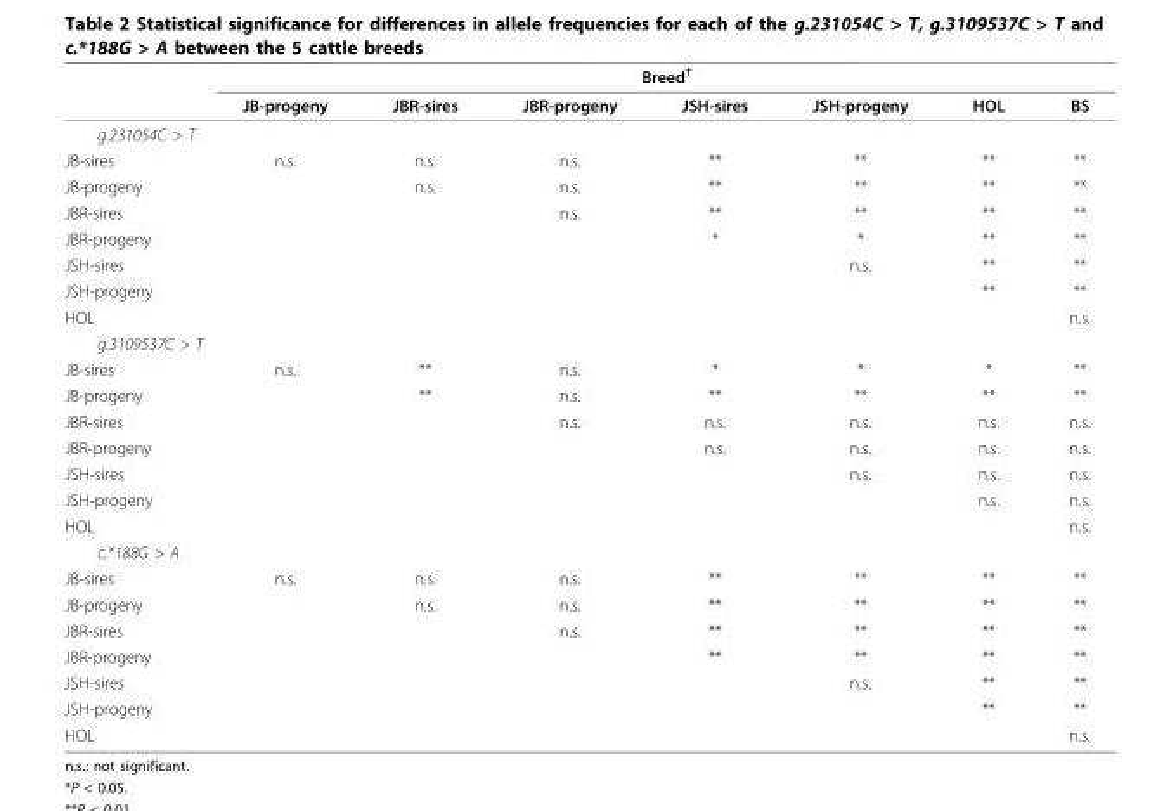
<table><thead><tr><td rowspan="2"></td><td colspan="7">Breed<sup>†</sup></td></tr><tr><td>JB-progeny</td><td>JBR-sires</td><td>JBR-progeny</td><td>JSH-sires</td><td>JSH-progeny</td><td>HOL</td><td>BS</td></tr></thead><tbody><tr><td colspan="8">g.231054C &gt; T</td></tr><tr><td>JB-sires</td><td>n.s.</td><td>n.s.</td><td>n.s.</td><td>**</td><td>**</td><td>**</td><td>**</td></tr><tr><td>JB-progeny</td><td></td><td>n.s.</td><td>n.s.</td><td>**</td><td>**</td><td>**</td><td>**</td></tr><tr><td>JBR-sires</td><td></td><td></td><td>n.s.</td><td>**</td><td>**</td><td>**</td><td>**</td></tr><tr><td>JBR-progeny</td><td></td><td></td><td></td><td>*</td><td>*</td><td>**</td><td>**</td></tr><tr><td>JSH-sires</td><td></td><td></td><td></td><td></td><td>n.s.</td><td>**</td><td>**</td></tr><tr><td>JSH-progeny</td><td></td><td></td><td></td><td></td><td></td><td>**</td><td>**</td></tr><tr><td>HOL</td><td></td><td></td><td></td><td></td><td></td><td></td><td>n.s.</td></tr><tr><td colspan="8">g.3109537C &gt; T</td></tr><tr><td>JB-sires</td><td>n.s.</td><td>**</td><td>n.s.</td><td>*</td><td>*</td><td>*</td><td>**</td></tr><tr><td>JB-progeny</td><td></td><td>**</td><td>n.s.</td><td>**</td><td>**</td><td>**</td><td>**</td></tr><tr><td>JBR-sires</td><td></td><td></td><td>n.s.</td><td>n.s.</td><td>n.s.</td><td>n.s.</td><td>n.s.</td></tr><tr><td>JBR-progeny</td><td></td><td></td><td></td><td>n.s.</td><td>n.s.</td><td>n.s.</td><td>n.s.</td></tr><tr><td>JSH-sires</td><td></td><td></td><td></td><td></td><td>n.s.</td><td>n.s.</td><td>n.s.</td></tr><tr><td>JSH-progeny</td><td></td><td></td><td></td><td></td><td></td><td>n.s.</td><td>n.s.</td></tr><tr><td>HOL</td><td></td><td></td><td></td><td></td><td></td><td></td><td>n.s.</td></tr><tr><td colspan="8">c.*188G &gt; A</td></tr><tr><td>JB-sires</td><td>n.s.</td><td>n.s.</td><td>n.s.</td><td>**</td><td>**</td><td>**</td><td>**</td></tr><tr><td>JB-progeny</td><td></td><td>n.s.</td><td>n.s.</td><td>**</td><td>**</td><td>**</td><td>**</td></tr><tr><td>JBR-sires</td><td></td><td></td><td>n.s.</td><td>**</td><td>**</td><td>**</td><td>**</td></tr><tr><td>JBR-progeny</td><td></td><td></td><td></td><td>**</td><td>**</td><td>**</td><td>**</td></tr><tr><td>JSH-sires</td><td></td><td></td><td></td><td></td><td>n.s.</td><td>**</td><td>**</td></tr><tr><td>JSH-progeny</td><td></td><td></td><td></td><td></td><td></td><td>**</td><td>**</td></tr><tr><td>HOL</td><td></td><td></td><td></td><td></td><td></td><td></td><td>n.s.</td></tr></tbody></table>